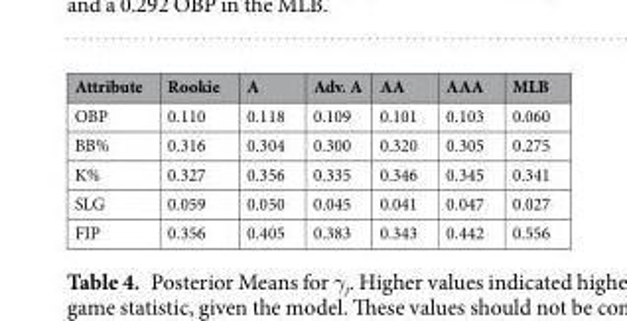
<table><thead><tr><td>Attribute</td><td>Rookie</td><td>A</td><td>Adv. A</td><td>AA</td><td>AAA</td><td>MLB</td></tr></thead><tbody><tr><td>OBP</td><td>0.110</td><td>0.118</td><td>0.109</td><td>0.101</td><td>0.103</td><td>0.060</td></tr><tr><td>BB%</td><td>0.316</td><td>0.304</td><td>0.300</td><td>0.320</td><td>0.305</td><td>0.275</td></tr><tr><td>K%</td><td>0.327</td><td>0.356</td><td>0.335</td><td>0.346</td><td>0.345</td><td>0.341</td></tr><tr><td>SLG</td><td>0.059</td><td>0.050</td><td>0.045</td><td>0.041</td><td>0.047</td><td>0.027</td></tr><tr><td>FIP</td><td>0.356</td><td>0.405</td><td>0.383</td><td>0.343</td><td>0.442</td><td>0.556</td></tr></tbody></table>